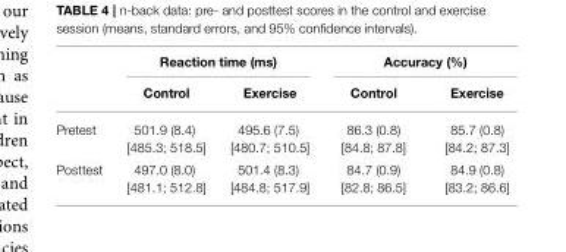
<table><thead><tr><td rowspan="2"></td><td colspan="2">Reaction time (ms)</td><td colspan="2">Accuracy (%)</td></tr><tr><td>Control</td><td>Exercise</td><td>Control</td><td>Exercise</td></tr></thead><tbody><tr><td>Pretest</td><td>501.9 (8.4) [485.3; 518.5]</td><td>495.6 (7.5) [480.7; 510.5]</td><td>86.3 (0.8) [84.8; 87.8]</td><td>85.7 (0.8) [84.2; 87.3]</td></tr><tr><td>Posttest</td><td>497.0 (8.0) [481.1; 512.8]</td><td>501.4 (8.3) [484.8; 517.9]</td><td>84.7 (0.9) [82.8; 86.5]</td><td>84.9 (0.8) [83.2; 86.6]</td></tr></tbody></table>